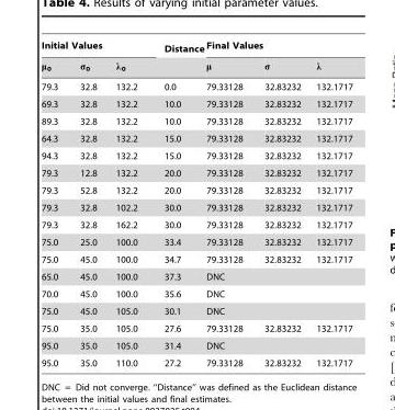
<table><thead><tr><td colspan="3">Initial Values</td><td rowspan="2">Distance</td><td colspan="3">Final Values</td></tr><tr><td>μ<sub>0</sub></td><td>σ<sub>0</sub></td><td>λ<sub>0</sub></td><td>μ</td><td>σ</td><td>λ</td></tr></thead><tbody><tr><td>79.3</td><td>32.8</td><td>132.2</td><td>0.0</td><td>79.33128</td><td>32.83232</td><td>132.1717</td></tr><tr><td>69.3</td><td>32.8</td><td>132.2</td><td>10.0</td><td>79.33128</td><td>32.83232</td><td>132.1717</td></tr><tr><td>89.3</td><td>32.8</td><td>132.2</td><td>10.0</td><td>79.33128</td><td>32.83232</td><td>132.1717</td></tr><tr><td>64.3</td><td>32.8</td><td>132.2</td><td>15.0</td><td>79.33128</td><td>32.83232</td><td>132.1717</td></tr><tr><td>94.3</td><td>32.8</td><td>132.2</td><td>15.0</td><td>79.33128</td><td>32.83232</td><td>132.1717</td></tr><tr><td>79.3</td><td>12.8</td><td>132.2</td><td>20.0</td><td>79.33128</td><td>32.83232</td><td>132.1717</td></tr><tr><td>79.3</td><td>52.8</td><td>132.2</td><td>20.0</td><td>79.33128</td><td>32.83232</td><td>132.1717</td></tr><tr><td>79.3</td><td>32.8</td><td>102.2</td><td>30.0</td><td>79.33128</td><td>32.83232</td><td>132.1717</td></tr><tr><td>79.3</td><td>32.8</td><td>162.2</td><td>30.0</td><td>79.33128</td><td>32.83232</td><td>132.1717</td></tr><tr><td>75.0</td><td>25.0</td><td>100.0</td><td>33.4</td><td>79.33128</td><td>32.83232</td><td>132.1717</td></tr><tr><td>75.0</td><td>45.0</td><td>100.0</td><td>34.7</td><td>79.33128</td><td>32.83232</td><td>132.1717</td></tr><tr><td>65.0</td><td>45.0</td><td>100.0</td><td>37.3</td><td colspan="3">DNC</td></tr><tr><td>70.0</td><td>45.0</td><td>100.0</td><td>35.6</td><td colspan="3">DNC</td></tr><tr><td>75.0</td><td>45.0</td><td>105.0</td><td>30.1</td><td colspan="3">DNC</td></tr><tr><td>75.0</td><td>35.0</td><td>105.0</td><td>27.6</td><td>79.33128</td><td>32.83232</td><td>132.1717</td></tr><tr><td>95.0</td><td>35.0</td><td>105.0</td><td>31.4</td><td colspan="3">DNC</td></tr><tr><td>95.0</td><td>35.0</td><td>110.0</td><td>27.2</td><td>79.33128</td><td>32.83232</td><td>132.1717</td></tr></tbody></table>